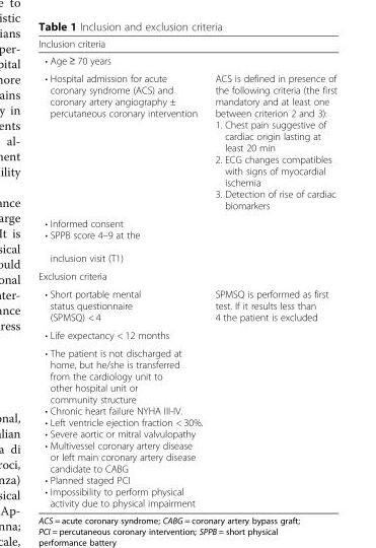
<table><thead><tr><td colspan="2">Inclusion criteria</td></tr><tr><td>• Age ≥ 70 years</td><td></td></tr></thead><tbody><tr><td>• Hospital admission for acute coronary syndrome (ACS) and coronary artery angiography ± percutaneous coronary intervention</td><td>ACS is defined in presence of the following criteria (the first mandatory and at least one between criterion 2 and 3): 1. Chest pain suggestive of cardiac origin lasting at least 20 min 2. ECG changes compatibles with signs of myocardial ischemia 3. Detection of rise of cardiac biomarkers</td></tr><tr><td colspan="2">• Informed consent • SPPB score 4–9 at the inclusion visit (T1)</td></tr><tr><td colspan="2">Exclusion criteria</td></tr><tr><td>• Short portable mental status questionnaire (SPMSQ) &lt; 4</td><td>SPMSQ is performed as first test. If it results less than 4 the patient is excluded</td></tr><tr><td colspan="2">• Life expectancy &lt; 12 months</td></tr><tr><td>• The patient is not discharged at home, but he/she is transferred from the cardiology unit to other hospital unit or community structure • Chronic heart failure NYHA III-IV. • Left ventricle ejection fraction &lt; 30%. • Severe aortic or mitral valvulopathy • Multivessel coronary artery disease or left main coronary artery disease candidate to CABG • Planned staged PCI • Impossibility to perform physical activity due to physical impairment</td><td></td></tr></tbody></table>